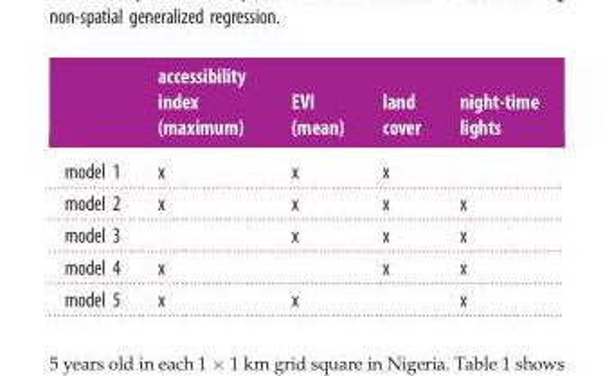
<table><thead><tr><td></td><td>accessibility index (maximum)</td><td>EVI (mean)</td><td>land cover</td><td>night-time lights</td></tr></thead><tbody><tr><td>model 1</td><td>x</td><td>x</td><td>x</td><td></td></tr><tr><td>model 2</td><td>x</td><td>x</td><td>x</td><td>x</td></tr><tr><td>model 3</td><td></td><td>x</td><td>x</td><td>x</td></tr><tr><td>model 4</td><td>x</td><td></td><td>x</td><td>x</td></tr><tr><td>model 5</td><td>x</td><td>x</td><td></td><td>x</td></tr></tbody></table>